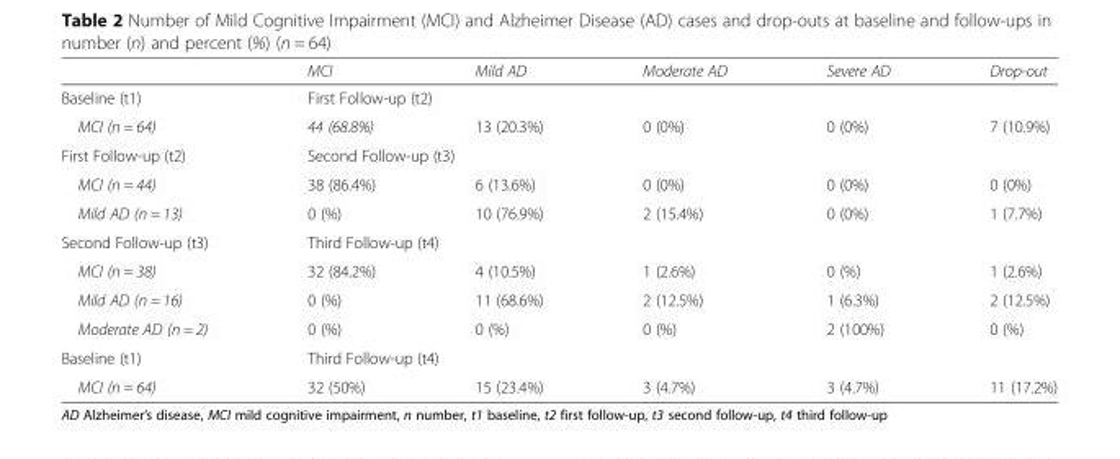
<table><thead><tr><td></td><td>MCI</td><td>Mild AD</td><td>Moderate AD</td><td>Severe AD</td><td>Drop-out</td></tr></thead><tbody><tr><td>Baseline (t1)</td><td colspan="5">First Follow-up (t2)</td></tr><tr><td>MCI (n = 64)</td><td>44 (68.8%)</td><td>13 (20.3%)</td><td>0 (0%)</td><td>0 (0%)</td><td>7 (10.9%)</td></tr><tr><td>First Follow-up (t2)</td><td colspan="5">Second Follow-up (t3)</td></tr><tr><td>MCI (n = 44)</td><td>38 (86.4%)</td><td>6 (13.6%)</td><td>0 (0%)</td><td>0 (0%)</td><td>0 (0%)</td></tr><tr><td>Mild AD (n = 13)</td><td>0 (%)</td><td>10 (76.9%)</td><td>2 (15.4%)</td><td>0 (0%)</td><td>1 (7.7%)</td></tr><tr><td>Second Follow-up (t3)</td><td colspan="5">Third Follow-up (t4)</td></tr><tr><td>MCI (n = 38)</td><td>32 (84.2%)</td><td>4 (10.5%)</td><td>1 (2.6%)</td><td>0 (%)</td><td>1 (2.6%)</td></tr><tr><td>Mild AD (n = 16)</td><td>0 (%)</td><td>11 (68.6%)</td><td>2 (12.5%)</td><td>1 (6.3%)</td><td>2 (12.5%)</td></tr><tr><td>Moderate AD (n = 2)</td><td>0 (%)</td><td>0 (%)</td><td>0 (%)</td><td>2 (100%)</td><td>0 (%)</td></tr><tr><td>Baseline (t1)</td><td colspan="5">Third Follow-up (t4)</td></tr><tr><td>MCI (n = 64)</td><td>32 (50%)</td><td>15 (23.4%)</td><td>3 (4.7%)</td><td>3 (4.7%)</td><td>11 (17.2%)</td></tr></tbody></table>